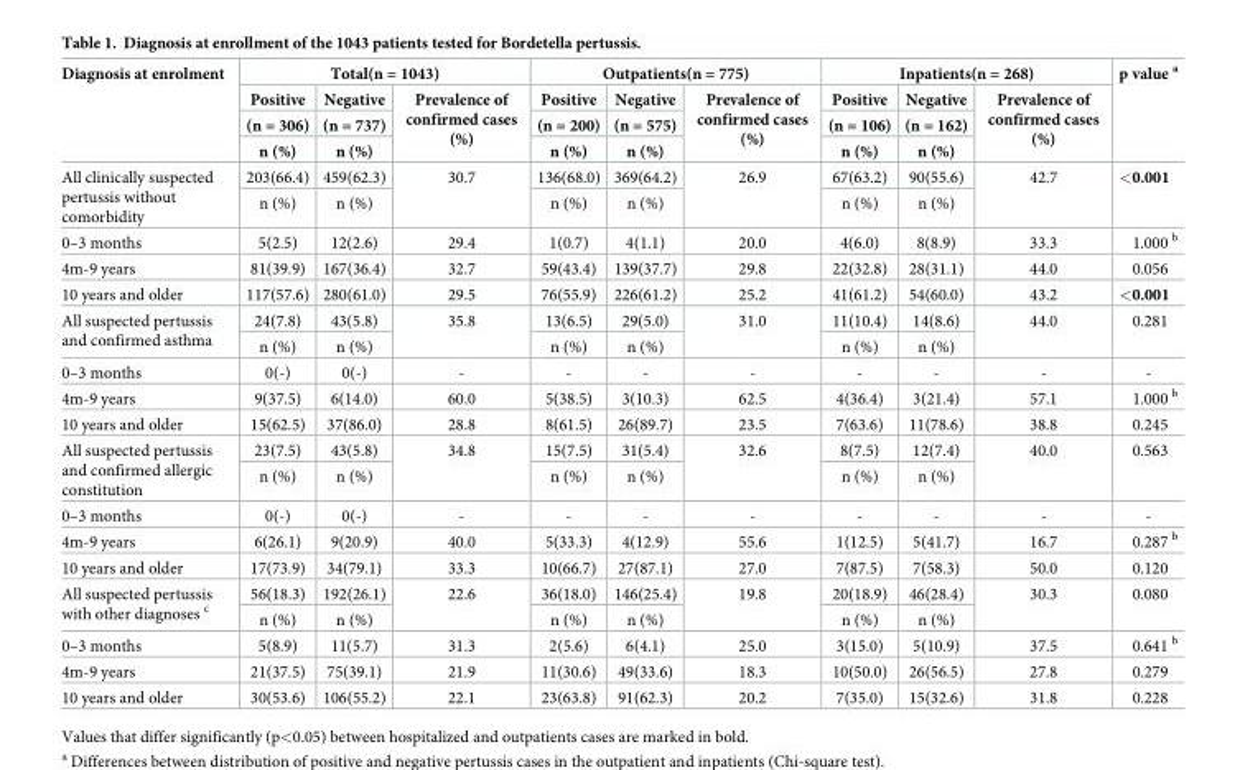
<table><thead><tr><td rowspan="4">Diagnosis at enrolment</td><td colspan="3">Total(n = 1043)</td><td colspan="3">Outpatients(n = 775)</td><td colspan="3">Inpatients(n = 268)</td><td rowspan="4">p value <sup>a</sup></td></tr><tr><td rowspan="3">Positive (n = 306) n (%)</td><td rowspan="3">Negative (n = 737) n (%)</td><td rowspan="3">Prevalence of confirmed cases (%)</td><td rowspan="3">Positive (n = 200) n (%)</td><td rowspan="3">Negative (n = 575) n (%)</td><td rowspan="3">Prevalence of confirmed cases (%)</td><td rowspan="3">Positive (n = 106) n (%)</td><td rowspan="3">Negative (n = 162) n (%)</td><td rowspan="3">Prevalence of confirmed cases (%)</td></tr><tr></tr><tr></tr></thead><tbody><tr><td rowspan="2">All clinically suspected pertussis without comorbidity</td><td>203(66.4)</td><td>459(62.3)</td><td rowspan="2">30.7</td><td>136(68.0)</td><td>369(64.2)</td><td rowspan="2">26.9</td><td>67(63.2)</td><td>90(55.6)</td><td rowspan="2">42.7</td><td rowspan="2">&lt;0.001</td></tr><tr><td>n (%)</td><td>n (%)</td><td>n (%)</td><td>n (%)</td><td>n (%)</td><td>n (%)</td></tr><tr><td>0–3 months</td><td>5(2.5)</td><td>12(2.6)</td><td>29.4</td><td>1(0.7)</td><td>4(1.1)</td><td>20.0</td><td>4(6.0)</td><td>8(8.9)</td><td>33.3</td><td>1.000 <sup>b</sup></td></tr><tr><td>4m-9 years</td><td>81(39.9)</td><td>167(36.4)</td><td>32.7</td><td>59(43.4)</td><td>139(37.7)</td><td>29.8</td><td>22(32.8)</td><td>28(31.1)</td><td>44.0</td><td>0.056</td></tr><tr><td>10 years and older</td><td>117(57.6)</td><td>280(61.0)</td><td>29.5</td><td>76(55.9)</td><td>226(61.2)</td><td>25.2</td><td>41(61.2)</td><td>54(60.0)</td><td>43.2</td><td>&lt;0.001</td></tr><tr><td rowspan="2">All suspected pertussis and confirmed asthma</td><td>24(7.8)</td><td>43(5.8)</td><td rowspan="2">35.8</td><td>13(6.5)</td><td>29(5.0)</td><td rowspan="2">31.0</td><td>11(10.4)</td><td>14(8.6)</td><td rowspan="2">44.0</td><td rowspan="2">0.281</td></tr><tr><td>n (%)</td><td>n (%)</td><td>n (%)</td><td>n (%)</td><td>n (%)</td><td>n (%)</td></tr><tr><td>0–3 months</td><td>0(-)</td><td>0(-)</td><td>-</td><td>-</td><td>-</td><td>-</td><td>-</td><td>-</td><td>-</td><td>-</td></tr><tr><td>4m-9 years</td><td>9(37.5)</td><td>6(14.0)</td><td>60.0</td><td>5(38.5)</td><td>3(10.3)</td><td>62.5</td><td>4(36.4)</td><td>3(21.4)</td><td>57.1</td><td>1.000 <sup>b</sup></td></tr><tr><td>10 years and older</td><td>15(62.5)</td><td>37(86.0)</td><td>28.8</td><td>8(61.5)</td><td>26(89.7)</td><td>23.5</td><td>7(63.6)</td><td>11(78.6)</td><td>38.8</td><td>0.245</td></tr><tr><td rowspan="2">All suspected pertussis and confirmed allergic constitution</td><td>23(7.5)</td><td>43(5.8)</td><td rowspan="2">34.8</td><td>15(7.5)</td><td>31(5.4)</td><td rowspan="2">32.6</td><td>8(7.5)</td><td>12(7.4)</td><td rowspan="2">40.0</td><td rowspan="2">0.563</td></tr><tr><td>n (%)</td><td>n (%)</td><td>n (%)</td><td>n (%)</td><td>n (%)</td><td>n (%)</td></tr><tr><td>0–3 months</td><td>0(-)</td><td>0(-)</td><td>-</td><td>-</td><td>-</td><td>-</td><td>-</td><td>-</td><td>-</td><td>-</td></tr><tr><td>4m-9 years</td><td>6(26.1)</td><td>9(20.9)</td><td>40.0</td><td>5(33.3)</td><td>4(12.9)</td><td>55.6</td><td>1(12.5)</td><td>5(41.7)</td><td>16.7</td><td>0.287 <sup>b</sup></td></tr><tr><td>10 years and older</td><td>17(73.9)</td><td>34(79.1)</td><td>33.3</td><td>10(66.7)</td><td>27(87.1)</td><td>27.0</td><td>7(87.5)</td><td>7(58.3)</td><td>50.0</td><td>0.120</td></tr><tr><td rowspan="2">All suspected pertussis with other diagnoses <sup>c</sup></td><td>56(18.3)</td><td>192(26.1)</td><td rowspan="2">22.6</td><td>36(18.0)</td><td>146(25.4)</td><td rowspan="2">19.8</td><td>20(18.9)</td><td>46(28.4)</td><td rowspan="2">30.3</td><td rowspan="2">0.080</td></tr><tr><td>n (%)</td><td>n (%)</td><td>n (%)</td><td>n (%)</td><td>n (%)</td><td>n (%)</td></tr><tr><td>0–3 months</td><td>5(8.9)</td><td>11(5.7)</td><td>31.3</td><td>2(5.6)</td><td>6(4.1)</td><td>25.0</td><td>3(15.0)</td><td>5(10.9)</td><td>37.5</td><td>0.641 <sup>b</sup></td></tr><tr><td>4m-9 years</td><td>21(37.5)</td><td>75(39.1)</td><td>21.9</td><td>11(30.6)</td><td>49(33.6)</td><td>18.3</td><td>10(50.0)</td><td>26(56.5)</td><td>27.8</td><td>0.279</td></tr><tr><td>10 years and older</td><td>30(53.6)</td><td>106(55.2)</td><td>22.1</td><td>23(63.8)</td><td>91(62.3)</td><td>20.2</td><td>7(35.0)</td><td>15(32.6)</td><td>31.8</td><td>0.228</td></tr></tbody></table>